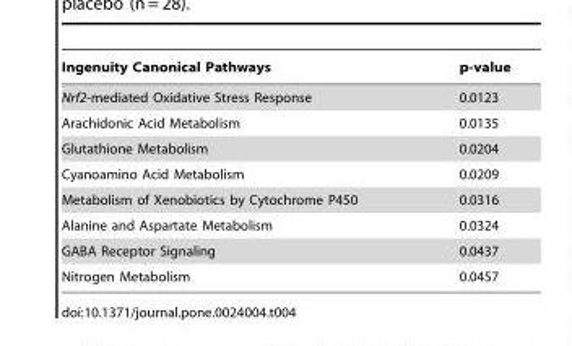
<table><thead><tr><td>Ingenuity Canonical Pathways</td><td>p-value</td></tr></thead><tbody><tr><td>Nrf2-mediated Oxidative Stress Response</td><td>0.0123</td></tr><tr><td>Arachidonic Acid Metabolism</td><td>0.0135</td></tr><tr><td>Glutathione Metabolism</td><td>0.0204</td></tr><tr><td>Cyanoamino Acid Metabolism</td><td>0.0209</td></tr><tr><td>Metabolism of Xenobiotics by Cytochrome P450</td><td>0.0316</td></tr><tr><td>Alanine and Aspartate Metabolism</td><td>0.0324</td></tr><tr><td>GABA Receptor Signaling</td><td>0.0437</td></tr><tr><td>Nitrogen Metabolism</td><td>0.0457</td></tr></tbody></table>